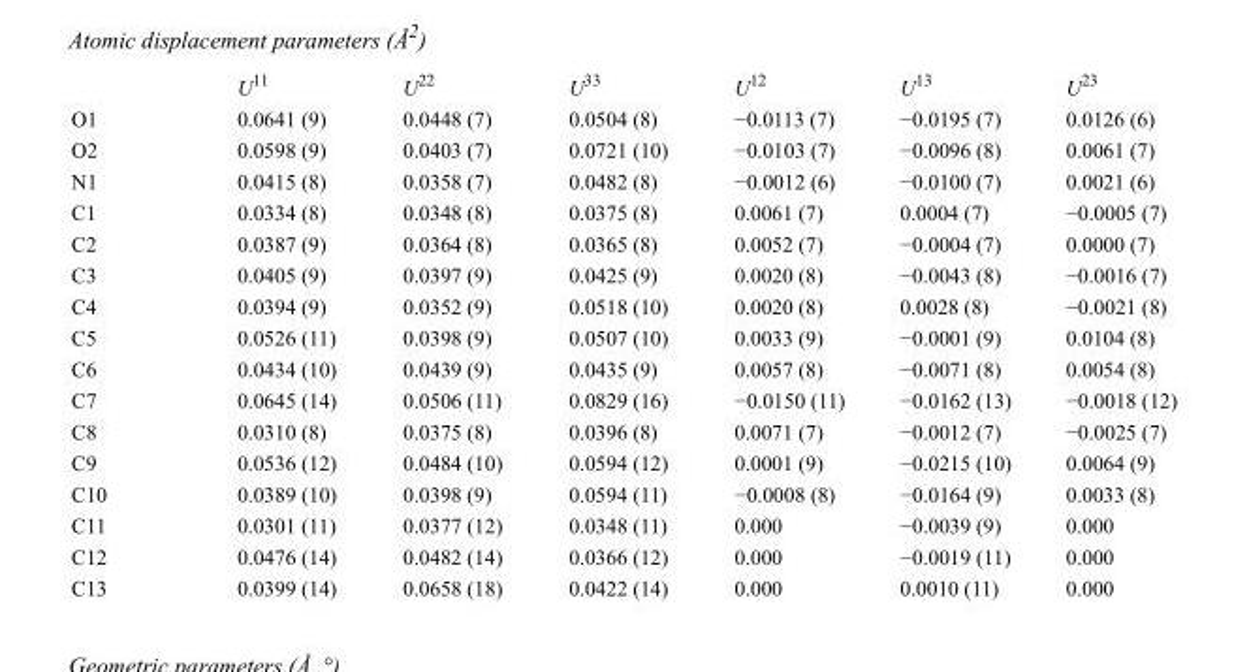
<table><thead><tr><td></td><td>U<sup>11</sup></td><td>U<sup>22</sup></td><td>U<sup>33</sup></td><td>U<sup>12</sup></td><td>U<sup>13</sup></td><td>U<sup>23</sup></td></tr></thead><tbody><tr><td>O1</td><td>0.0641 (9)</td><td>0.0448 (7)</td><td>0.0504 (8)</td><td>−0.0113 (7)</td><td>−0.0195 (7)</td><td>0.0126 (6)</td></tr><tr><td>O2</td><td>0.0598 (9)</td><td>0.0403 (7)</td><td>0.0721 (10)</td><td>−0.0103 (7)</td><td>−0.0096 (8)</td><td>0.0061 (7)</td></tr><tr><td>N1</td><td>0.0415 (8)</td><td>0.0358 (7)</td><td>0.0482 (8)</td><td>−0.0012 (6)</td><td>−0.0100 (7)</td><td>0.0021 (6)</td></tr><tr><td>C1</td><td>0.0334 (8)</td><td>0.0348 (8)</td><td>0.0375 (8)</td><td>0.0061 (7)</td><td>0.0004 (7)</td><td>−0.0005 (7)</td></tr><tr><td>C2</td><td>0.0387 (9)</td><td>0.0364 (8)</td><td>0.0365 (8)</td><td>0.0052 (7)</td><td>−0.0004 (7)</td><td>0.0000 (7)</td></tr><tr><td>C3</td><td>0.0405 (9)</td><td>0.0397 (9)</td><td>0.0425 (9)</td><td>0.0020 (8)</td><td>−0.0043 (8)</td><td>−0.0016 (7)</td></tr><tr><td>C4</td><td>0.0394 (9)</td><td>0.0352 (9)</td><td>0.0518 (10)</td><td>0.0020 (8)</td><td>0.0028 (8)</td><td>−0.0021 (8)</td></tr><tr><td>C5</td><td>0.0526 (11)</td><td>0.0398 (9)</td><td>0.0507 (10)</td><td>0.0033 (9)</td><td>−0.0001 (9)</td><td>0.0104 (8)</td></tr><tr><td>C6</td><td>0.0434 (10)</td><td>0.0439 (9)</td><td>0.0435 (9)</td><td>0.0057 (8)</td><td>−0.0071 (8)</td><td>0.0054 (8)</td></tr><tr><td>C7</td><td>0.0645 (14)</td><td>0.0506 (11)</td><td>0.0829 (16)</td><td>−0.0150 (11)</td><td>−0.0162 (13)</td><td>−0.0018 (12)</td></tr><tr><td>C8</td><td>0.0310 (8)</td><td>0.0375 (8)</td><td>0.0396 (8)</td><td>0.0071 (7)</td><td>−0.0012 (7)</td><td>−0.0025 (7)</td></tr><tr><td>C9</td><td>0.0536 (12)</td><td>0.0484 (10)</td><td>0.0594 (12)</td><td>0.0001 (9)</td><td>−0.0215 (10)</td><td>0.0064 (9)</td></tr><tr><td>C10</td><td>0.0389 (10)</td><td>0.0398 (9)</td><td>0.0594 (11)</td><td>−0.0008 (8)</td><td>−0.0164 (9)</td><td>0.0033 (8)</td></tr><tr><td>C11</td><td>0.0301 (11)</td><td>0.0377 (12)</td><td>0.0348 (11)</td><td>0.000</td><td>−0.0039 (9)</td><td>0.000</td></tr><tr><td>C12</td><td>0.0476 (14)</td><td>0.0482 (14)</td><td>0.0366 (12)</td><td>0.000</td><td>−0.0019 (11)</td><td>0.000</td></tr><tr><td>C13</td><td>0.0399 (14)</td><td>0.0658 (18)</td><td>0.0422 (14)</td><td>0.000</td><td>0.0010 (11)</td><td>0.000</td></tr></tbody></table>